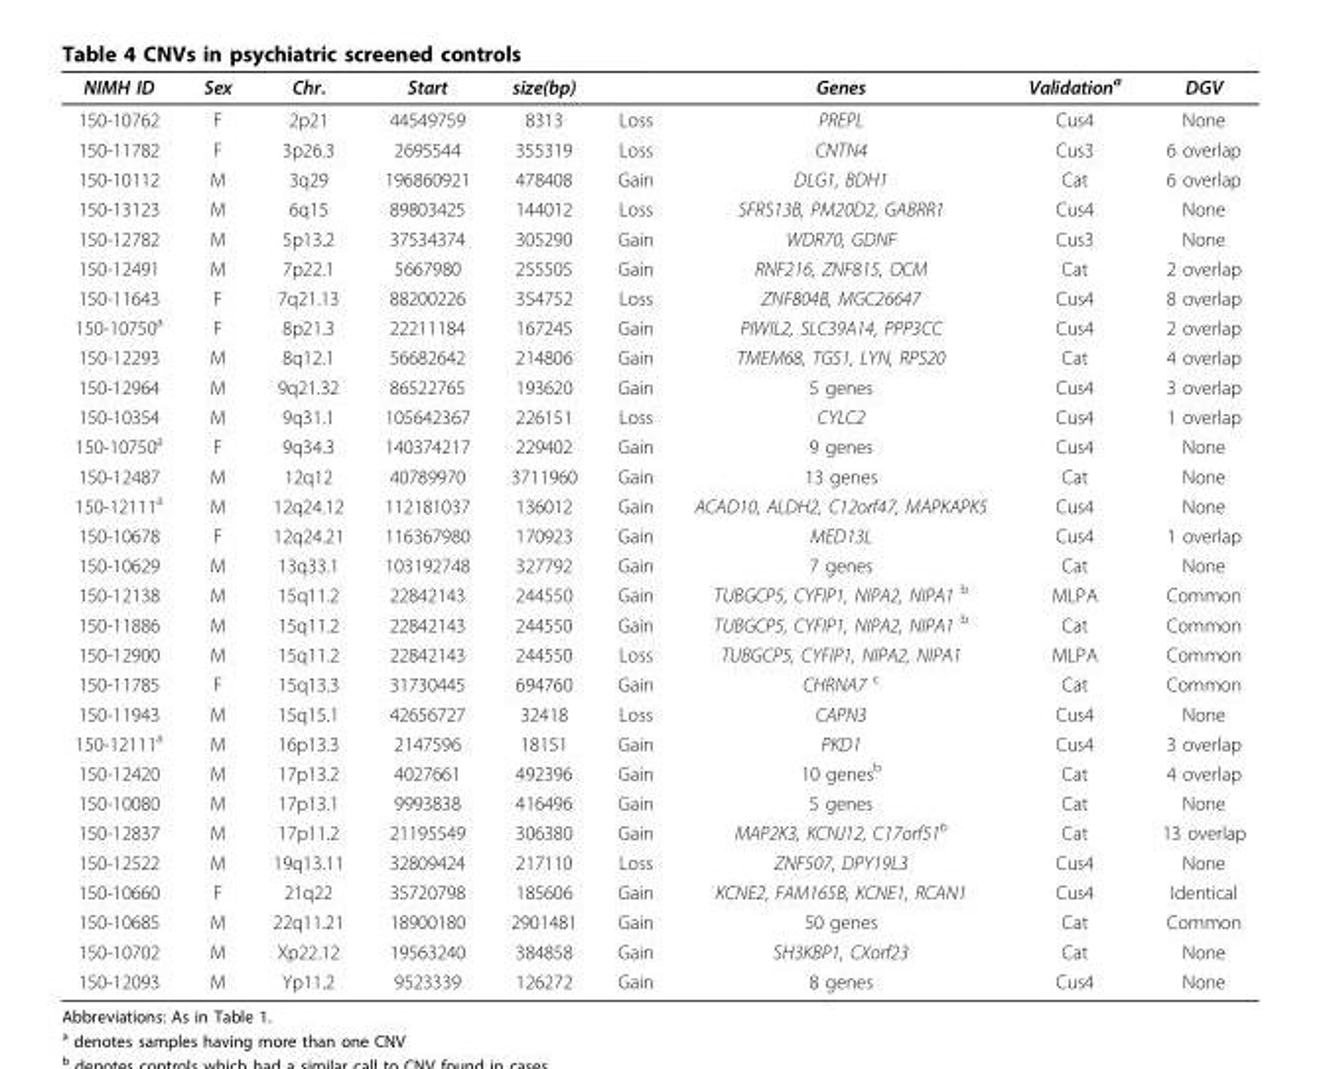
<table><thead><tr><td>NIMH ID</td><td>Sex</td><td>Chr.</td><td>Start</td><td>size(bp)</td><td></td><td>Genes</td><td>Validation<sup>a</sup></td><td>DGV</td></tr></thead><tbody><tr><td>150-10762</td><td>F</td><td>2p21</td><td>44549759</td><td>8313</td><td>Loss</td><td>PREPL</td><td>Cus4</td><td>None</td></tr><tr><td>150-11782</td><td>F</td><td>3p26.3</td><td>2695544</td><td>355319</td><td>Loss</td><td>CNTN4</td><td>Cus3</td><td>6 overlap</td></tr><tr><td>150-10112</td><td>M</td><td>3q29</td><td>196860921</td><td>478408</td><td>Gain</td><td>DLG1, BDH1</td><td>Cat</td><td>6 overlap</td></tr><tr><td>150-13123</td><td>M</td><td>6q15</td><td>89803425</td><td>144012</td><td>Loss</td><td>SFRS13B, PM20D2, GABRR1</td><td>Cus4</td><td>None</td></tr><tr><td>150-12782</td><td>M</td><td>5p13.2</td><td>37534374</td><td>305290</td><td>Gain</td><td>WDR70, GDNF</td><td>Cus3</td><td>None</td></tr><tr><td>150-12491</td><td>M</td><td>7p22.1</td><td>5667980</td><td>255505</td><td>Gain</td><td>RNF216, ZNF815, OCM</td><td>Cat</td><td>2 overlap</td></tr><tr><td>150-11643</td><td>F</td><td>7q21.13</td><td>88200226</td><td>354752</td><td>Loss</td><td>ZNF804B, MGC26647</td><td>Cus4</td><td>8 overlap</td></tr><tr><td>150-10750<sup>a</sup></td><td>F</td><td>8p21.3</td><td>22211184</td><td>167245</td><td>Gain</td><td>PIWIL2, SLC39A14, PPP3CC</td><td>Cus4</td><td>2 overlap</td></tr><tr><td>150-12293</td><td>M</td><td>8q12.1</td><td>56682642</td><td>214806</td><td>Gain</td><td>TMEM68, TGS1, LYN, RPS20</td><td>Cat</td><td>4 overlap</td></tr><tr><td>150-12964</td><td>M</td><td>9q21.32</td><td>86522765</td><td>193620</td><td>Gain</td><td>5 genes</td><td>Cus4</td><td>3 overlap</td></tr><tr><td>150-10354</td><td>M</td><td>9q31.1</td><td>105642367</td><td>226151</td><td>Loss</td><td>CYLC2</td><td>Cus4</td><td>1 overlap</td></tr><tr><td>150-10750<sup>a</sup></td><td>F</td><td>9q34.3</td><td>140374217</td><td>229402</td><td>Gain</td><td>9 genes</td><td>Cus4</td><td>None</td></tr><tr><td>150-12487</td><td>M</td><td>12q12</td><td>40789970</td><td>3711960</td><td>Gain</td><td>13 genes</td><td>Cat</td><td>None</td></tr><tr><td>150-12111<sup>a</sup></td><td>M</td><td>12q24.12</td><td>112181037</td><td>136012</td><td>Gain</td><td>ACAD10, ALDH2, C12orf47, MAPKAPK5</td><td>Cus4</td><td>None</td></tr><tr><td>150-10678</td><td>F</td><td>12q24.21</td><td>116367980</td><td>170923</td><td>Gain</td><td>MED13L</td><td>Cus4</td><td>1 overlap</td></tr><tr><td>150-10629</td><td>M</td><td>13q33.1</td><td>103192748</td><td>327792</td><td>Gain</td><td>7 genes</td><td>Cat</td><td>None</td></tr><tr><td>150-12138</td><td>M</td><td>15q11.2</td><td>22842143</td><td>244550</td><td>Gain</td><td>TUBGCP5, CYFIP1, NIPA2, NIPA1 <sup>b</sup></td><td>MLPA</td><td>Common</td></tr><tr><td>150-11886</td><td>M</td><td>15q11.2</td><td>22842143</td><td>244550</td><td>Gain</td><td>TUBGCP5, CYFIP1, NIPA2, NIPA1 <sup>b</sup></td><td>Cat</td><td>Common</td></tr><tr><td>150-12900</td><td>M</td><td>15q11.2</td><td>22842143</td><td>244550</td><td>Loss</td><td>TUBGCP5, CYFIP1, NIPA2, NIPA1</td><td>MLPA</td><td>Common</td></tr><tr><td>150-11785</td><td>F</td><td>15q13.3</td><td>31730445</td><td>694760</td><td>Gain</td><td>CHRNA7 <sup>c</sup></td><td>Cat</td><td>Common</td></tr><tr><td>150-11943</td><td>M</td><td>15q15.1</td><td>42656727</td><td>32418</td><td>Loss</td><td>CAPN3</td><td>Cus4</td><td>None</td></tr><tr><td>150-12111<sup>a</sup></td><td>M</td><td>16p13.3</td><td>2147596</td><td>18151</td><td>Gain</td><td>PKD1</td><td>Cus4</td><td>3 overlap</td></tr><tr><td>150-12420</td><td>M</td><td>17p13.2</td><td>4027661</td><td>492396</td><td>Gain</td><td>10 genes<sup>b</sup></td><td>Cat</td><td>4 overlap</td></tr><tr><td>150-10080</td><td>M</td><td>17p13.1</td><td>9993838</td><td>416496</td><td>Gain</td><td>5 genes</td><td>Cat</td><td>None</td></tr><tr><td>150-12837</td><td>M</td><td>17p11.2</td><td>21195549</td><td>306380</td><td>Gain</td><td>MAP2K3, KCNJ12, C17orf51<sup>b</sup></td><td>Cat</td><td>13 overlap</td></tr><tr><td>150-12522</td><td>M</td><td>19q13.11</td><td>32809424</td><td>217110</td><td>Loss</td><td>ZNF507, DPY19L3</td><td>Cus4</td><td>None</td></tr><tr><td>150-10660</td><td>F</td><td>21q22</td><td>35720798</td><td>185606</td><td>Gain</td><td>KCNE2, FAM165B, KCNE1, RCAN1</td><td>Cus4</td><td>Identical</td></tr><tr><td>150-10685</td><td>M</td><td>22q11.21</td><td>18900180</td><td>2901481</td><td>Gain</td><td>50 genes</td><td>Cat</td><td>Common</td></tr><tr><td>150-10702</td><td>M</td><td>Xp22.12</td><td>19563240</td><td>384858</td><td>Gain</td><td>SH3KBP1, CXorf23</td><td>Cat</td><td>None</td></tr><tr><td>150-12093</td><td>M</td><td>Yp11.2</td><td>9523339</td><td>126272</td><td>Gain</td><td>8 genes</td><td>Cus4</td><td>None</td></tr></tbody></table>